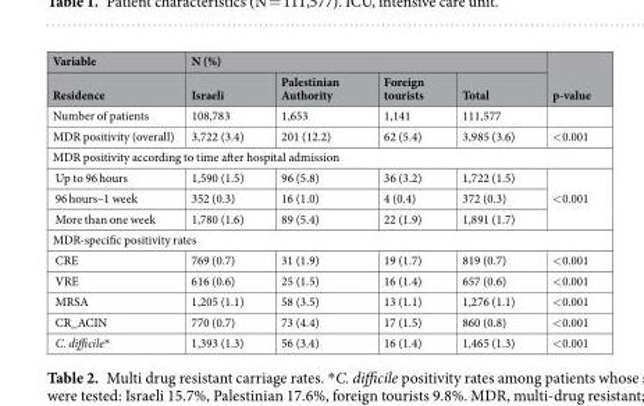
<table><thead><tr><td rowspan="2">Variable Residence</td><td colspan="4">N (%)</td><td rowspan="2">p-value</td></tr><tr><td>Israeli</td><td>Palestinian Authority</td><td>Foreign tourists</td><td>Total</td></tr></thead><tbody><tr><td>Number of patients</td><td>108,783</td><td>1,653</td><td>1,141</td><td>111,577</td><td></td></tr><tr><td>MDR positivity (overall)</td><td>3,722 (3.4)</td><td>201 (12.2)</td><td>62 (5.4)</td><td>3,985 (3.6)</td><td>&lt;0.001</td></tr><tr><td colspan="6">MDR positivity according to time after hospital admission</td></tr><tr><td>Up to 96 hours</td><td>1,590 (1.5)</td><td>96 (5.8)</td><td>36 (3.2)</td><td>1,722 (1.5)</td><td rowspan="3">&lt;0.001</td></tr><tr><td>96 hours–1 week</td><td>352 (0.3)</td><td>16 (1.0)</td><td>4 (0.4)</td><td>372 (0.3)</td></tr><tr><td>More than one week</td><td>1,780 (1.6)</td><td>89 (5.4)</td><td>22 (1.9)</td><td>1,891 (1.7)</td></tr><tr><td colspan="6">MDR-specific positivity rates</td></tr><tr><td>CRE</td><td>769 (0.7)</td><td>31 (1.9)</td><td>19 (1.7)</td><td>819 (0.7)</td><td>&lt;0.001</td></tr><tr><td>VRE</td><td>616 (0.6)</td><td>25 (1.5)</td><td>16 (1.4)</td><td>657 (0.6)</td><td>&lt;0.001</td></tr><tr><td>MRSA</td><td>1,205 (1.1)</td><td>58 (3.5)</td><td>13 (1.1)</td><td>1,276 (1.1)</td><td>&lt;0.001</td></tr><tr><td>CR_ACIN</td><td>770 (0.7)</td><td>73 (4.4)</td><td>17 (1.5)</td><td>860 (0.8)</td><td>&lt;0.001</td></tr><tr><td>C. difficile*</td><td>1,393 (1.3)</td><td>56 (3.4)</td><td>16 (1.4)</td><td>1,465 (1.3)</td><td>&lt;0.001</td></tr></tbody></table>